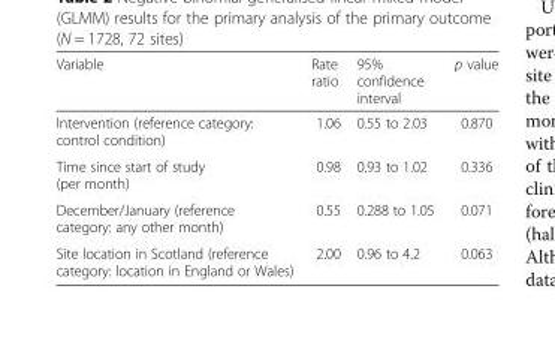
<table><thead><tr><td>Variable</td><td>Rate ratio</td><td>95% confidence interval</td><td>p value</td></tr></thead><tbody><tr><td>Intervention (reference category: control condition)</td><td>1.06</td><td>0.55 to 2.03</td><td>0.870</td></tr><tr><td>Time since start of study (per month)</td><td>0.98</td><td>0.93 to 1.02</td><td>0.336</td></tr><tr><td>December/January (reference category: any other month)</td><td>0.55</td><td>0.288 to 1.05</td><td>0.071</td></tr><tr><td>Site location in Scotland (reference category: location in England or Wales)</td><td>2.00</td><td>0.96 to 4.2</td><td>0.063</td></tr></tbody></table>